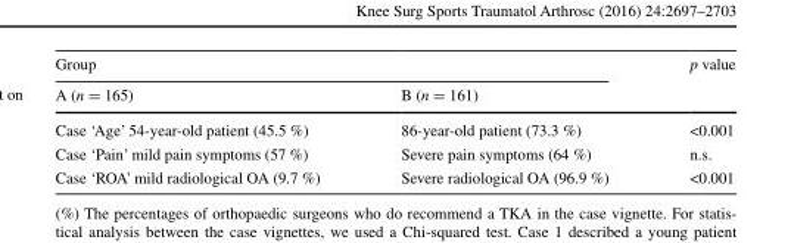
<table><thead><tr><td colspan="2">Group</td><td rowspan="2">p value</td></tr><tr><td>A (n = 165)</td><td>B (n = 161)</td></tr></thead><tbody><tr><td>Case ‘Age’ 54-year-old patient (45.5 %)</td><td>86-year-old patient (73.3 %)</td><td>&lt;0.001</td></tr><tr><td>Case ‘Pain’ mild pain symptoms (57 %)</td><td>Severe pain symptoms (64 %)</td><td>n.s.</td></tr><tr><td>Case ‘ROA’ mild radiological OA (9.7 %)</td><td>Severe radiological OA (96.9 %)</td><td>&lt;0.001</td></tr></tbody></table>